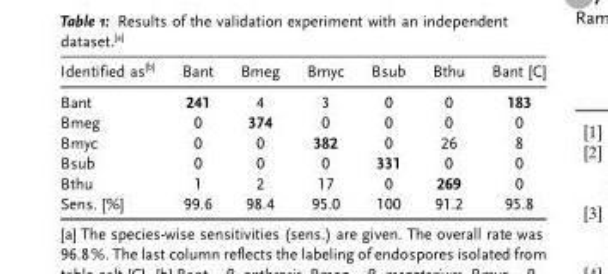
<table><thead><tr><td>Identified as[b]</td><td>Bant</td><td>Bmeg</td><td>Bmyc</td><td>Bsub</td><td>Bthu</td><td>Bant [C]</td></tr></thead><tbody><tr><td>Bant</td><td>241</td><td>4</td><td>3</td><td>0</td><td>0</td><td>183</td></tr><tr><td>Bmeg</td><td>0</td><td>374</td><td>0</td><td>0</td><td>0</td><td>0</td></tr><tr><td>Bmyc</td><td>0</td><td>0</td><td>382</td><td>0</td><td>26</td><td>8</td></tr><tr><td>Bsub</td><td>0</td><td>0</td><td>0</td><td>331</td><td>0</td><td>0</td></tr><tr><td>Bthu</td><td>1</td><td>2</td><td>17</td><td>0</td><td>269</td><td>0</td></tr><tr><td>Sens. [%]</td><td>99.6</td><td>98.4</td><td>95.0</td><td>100</td><td>91.2</td><td>95.8</td></tr></tbody></table>